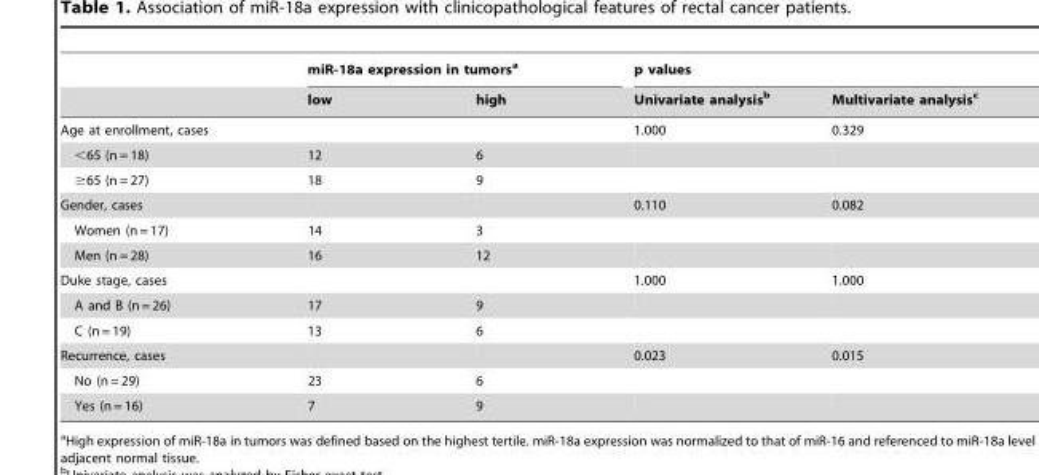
<table><thead><tr><td rowspan="2"></td><td colspan="2">miR-18a expression in tumors<sup>a</sup></td><td colspan="2">p values</td></tr><tr><td>low</td><td>high</td><td>Univariate analysis<sup>b</sup></td><td>Multivariate analysis<sup>c</sup></td></tr></thead><tbody><tr><td>Age at enrollment, cases</td><td></td><td></td><td>1.000</td><td>0.329</td></tr><tr><td>&lt;65 (n = 18)</td><td>12</td><td>6</td><td></td><td></td></tr><tr><td>≥65 (n = 27)</td><td>18</td><td>9</td><td></td><td></td></tr><tr><td>Gender, cases</td><td></td><td></td><td>0.110</td><td>0.082</td></tr><tr><td>Women (n = 17)</td><td>14</td><td>3</td><td></td><td></td></tr><tr><td>Men (n = 28)</td><td>16</td><td>12</td><td></td><td></td></tr><tr><td>Duke stage, cases</td><td></td><td></td><td>1.000</td><td>1.000</td></tr><tr><td>A and B (n = 26)</td><td>17</td><td>9</td><td></td><td></td></tr><tr><td>C (n = 19)</td><td>13</td><td>6</td><td></td><td></td></tr><tr><td>Recurrence, cases</td><td></td><td></td><td>0.023</td><td>0.015</td></tr><tr><td>No (n = 29)</td><td>23</td><td>6</td><td></td><td></td></tr><tr><td>Yes (n = 16)</td><td>7</td><td>9</td><td></td><td></td></tr></tbody></table>